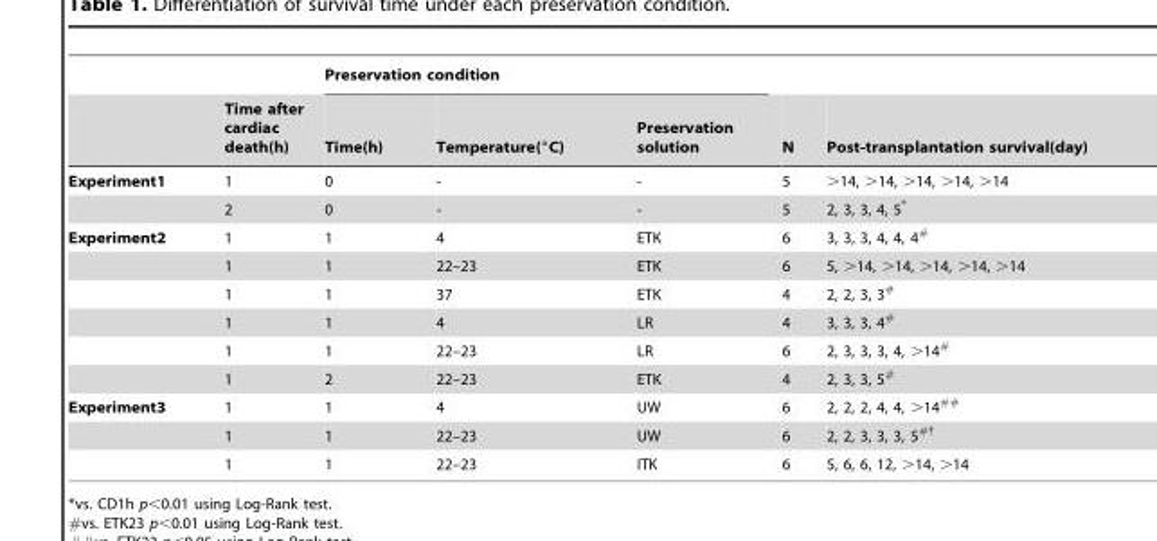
<table><thead><tr><td rowspan="2"></td><td rowspan="2">Time after cardiac death(h)</td><td colspan="3">Preservation condition</td><td rowspan="2">N</td><td rowspan="2">Post-transplantation survival(day)</td></tr><tr><td>Time(h)</td><td>Temperature(°C)</td><td>Preservation solution</td></tr></thead><tbody><tr><td rowspan="2">Experiment1</td><td>1</td><td>0</td><td>-</td><td>-</td><td>5</td><td>&gt;14, &gt;14, &gt;14, &gt;14, &gt;14</td></tr><tr><td>2</td><td>0</td><td>-</td><td>-</td><td>5</td><td>2, 3, 3, 4, 5*</td></tr><tr><td rowspan="6">Experiment2</td><td>1</td><td>1</td><td>4</td><td>ETK</td><td>6</td><td>3, 3, 3, 4, 4, 4#</td></tr><tr><td>1</td><td>1</td><td>22–23</td><td>ETK</td><td>6</td><td>5, &gt;14, &gt;14, &gt;14, &gt;14, &gt;14</td></tr><tr><td>1</td><td>1</td><td>37</td><td>ETK</td><td>4</td><td>2, 2, 3, 3#</td></tr><tr><td>1</td><td>1</td><td>4</td><td>LR</td><td>4</td><td>3, 3, 3, 4#</td></tr><tr><td>1</td><td>1</td><td>22–23</td><td>LR</td><td>6</td><td>2, 3, 3, 3, 4, &gt;14#</td></tr><tr><td>1</td><td>2</td><td>22–23</td><td>ETK</td><td>4</td><td>2, 3, 3, 5#</td></tr><tr><td rowspan="3">Experiment3</td><td>1</td><td>1</td><td>4</td><td>UW</td><td>6</td><td>2, 2, 2, 4, 4, &gt;14##</td></tr><tr><td>1</td><td>1</td><td>22–23</td><td>UW</td><td>6</td><td>2, 2, 3, 3, 3, 5#†</td></tr><tr><td>1</td><td>1</td><td>22–23</td><td>ITK</td><td>6</td><td>5, 6, 6, 12, &gt;14, &gt;14</td></tr></tbody></table>